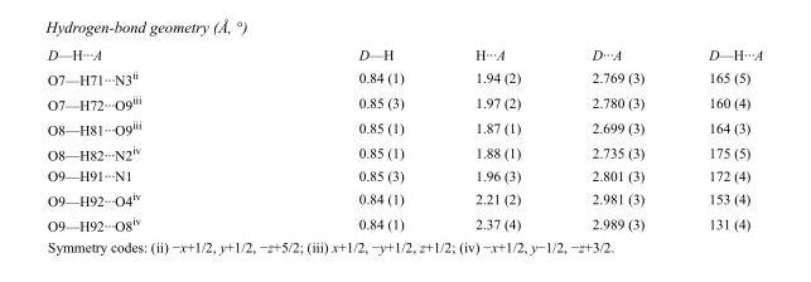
<table><tbody><tr><td>D—H···A</td><td>D—H</td><td>H···A</td><td>D···A</td><td>D—H···A</td></tr><tr><td>O7—H71···N3<sup>ii</sup></td><td>0.84 (1)</td><td>1.94 (2)</td><td>2.769 (3)</td><td>165 (5)</td></tr><tr><td>O7—H72···O9<sup>iii</sup></td><td>0.85 (3)</td><td>1.97 (2)</td><td>2.780 (3)</td><td>160 (4)</td></tr><tr><td>O8—H81···O9<sup>iii</sup></td><td>0.85 (1)</td><td>1.87 (1)</td><td>2.699 (3)</td><td>164 (3)</td></tr><tr><td>O8—H82···N2<sup>iv</sup></td><td>0.85 (1)</td><td>1.88 (1)</td><td>2.735 (3)</td><td>175 (5)</td></tr><tr><td>O9—H91···N1</td><td>0.85 (3)</td><td>1.96 (3)</td><td>2.801 (3)</td><td>172 (4)</td></tr><tr><td>O9—H92···O4<sup>iv</sup></td><td>0.84 (1)</td><td>2.21 (2)</td><td>2.981 (3)</td><td>153 (4)</td></tr><tr><td>O9—H92···O8<sup>iv</sup></td><td>0.84 (1)</td><td>2.37 (4)</td><td>2.989 (3)</td><td>131 (4)</td></tr></tbody></table>